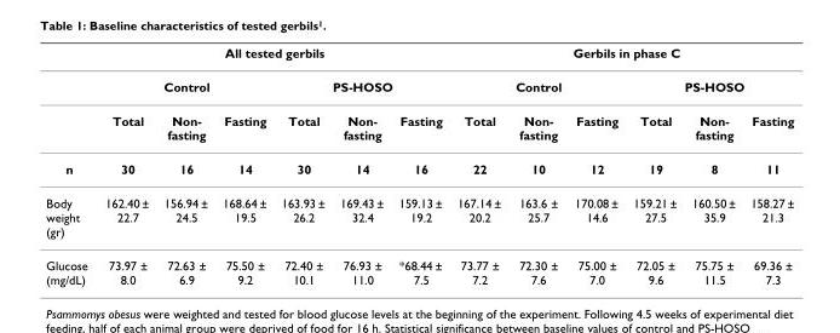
<table><thead><tr><td rowspan="3"></td><td colspan="6">All tested gerbils</td><td colspan="6">Gerbils in phase C</td></tr><tr><td colspan="3">Control</td><td colspan="3">PS-HOSO</td><td colspan="3">Control</td><td colspan="3">PS-HOSO</td></tr><tr><td>Total</td><td>Non- fasting</td><td>Fasting</td><td>Total</td><td>Non- fasting</td><td>Fasting</td><td>Total</td><td>Non- fasting</td><td>Fasting</td><td>Total</td><td>Non- fasting</td><td>Fasting</td></tr></thead><tbody><tr><td>n</td><td>30</td><td>16</td><td>14</td><td>30</td><td>14</td><td>16</td><td>22</td><td>10</td><td>12</td><td>19</td><td>8</td><td>11</td></tr><tr><td>Body weight (gr)</td><td>162.40 ± 22.7</td><td>156.94 ± 24.5</td><td>168.64 ± 19.5</td><td>163.93 ± 26.2</td><td>169.43 ± 32.4</td><td>159.13 ± 19.2</td><td>167.14 ± 20.2</td><td>163.6 ± 25.7</td><td>170.08 ± 14.6</td><td>159.21 ± 27.5</td><td>160.50 ± 35.9</td><td>158.27 ± 21.3</td></tr><tr><td>Glucose (mg/dL)</td><td>73.97 ± 8.0</td><td>72.63 ± 6.9</td><td>75.50 ± 9.2</td><td>72.40 ± 10.1</td><td>76.93 ± 11.0</td><td>*68.44 ± 7.5</td><td>73.77 ± 7.2</td><td>72.30 ± 7.6</td><td>75.00 ± 7.0</td><td>72.05 ± 9.6</td><td>75.75 ± 11.5</td><td>69.36 ± 7.3</td></tr></tbody></table>